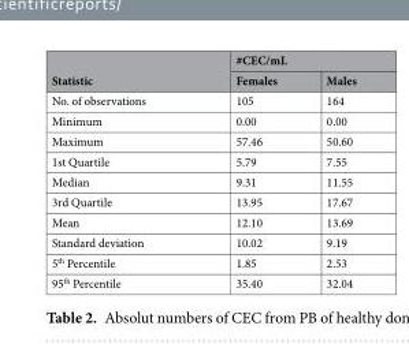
<table><thead><tr><td rowspan="2">Statistic</td><td colspan="2">#CEC/mL</td></tr><tr><td>Females</td><td>Males</td></tr></thead><tbody><tr><td>No. of observations</td><td>105</td><td>164</td></tr><tr><td>Minimum</td><td>0.00</td><td>0.00</td></tr><tr><td>Maximum</td><td>57.46</td><td>50.60</td></tr><tr><td>1st Quartile</td><td>5.79</td><td>7.55</td></tr><tr><td>Median</td><td>9.31</td><td>11.55</td></tr><tr><td>3rd Quartile</td><td>13.95</td><td>17.67</td></tr><tr><td>Mean</td><td>12.10</td><td>13.69</td></tr><tr><td>Standard deviation</td><td>10.02</td><td>9.19</td></tr><tr><td>5<sup>th</sup> Percentile</td><td>1.85</td><td>2.53</td></tr><tr><td>95<sup>th</sup> Percentile</td><td>35.40</td><td>32.04</td></tr></tbody></table>